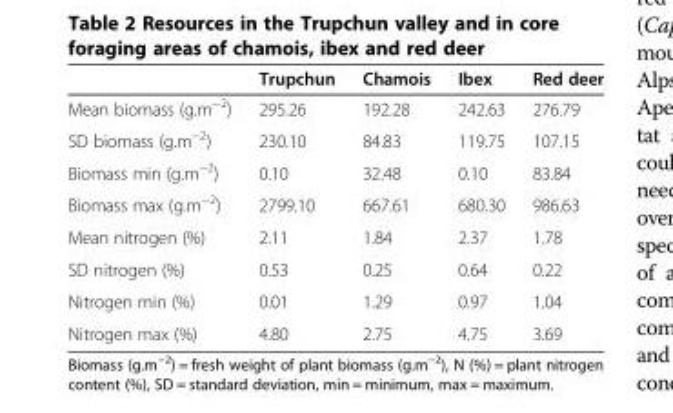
<table><thead><tr><td></td><td>Trupchun</td><td>Chamois</td><td>Ibex</td><td>Red deer</td></tr></thead><tbody><tr><td>Mean biomass (g.m<sup>−2</sup>)</td><td>295.26</td><td>192.28</td><td>242.63</td><td>276.79</td></tr><tr><td>SD biomass (g.m<sup>−2</sup>)</td><td>230.10</td><td>84.83</td><td>119.75</td><td>107.15</td></tr><tr><td>Biomass min (g.m<sup>−2</sup>)</td><td>0.10</td><td>32.48</td><td>0.10</td><td>83.84</td></tr><tr><td>Biomass max (g.m<sup>−2</sup>)</td><td>2799.10</td><td>667.61</td><td>680.30</td><td>986.63</td></tr><tr><td>Mean nitrogen (%)</td><td>2.11</td><td>1.84</td><td>2.37</td><td>1.78</td></tr><tr><td>SD nitrogen (%)</td><td>0.53</td><td>0.25</td><td>0.64</td><td>0.22</td></tr><tr><td>Nitrogen min (%)</td><td>0.01</td><td>1.29</td><td>0.97</td><td>1.04</td></tr><tr><td>Nitrogen max (%)</td><td>4.80</td><td>2.75</td><td>4.75</td><td>3.69</td></tr></tbody></table>